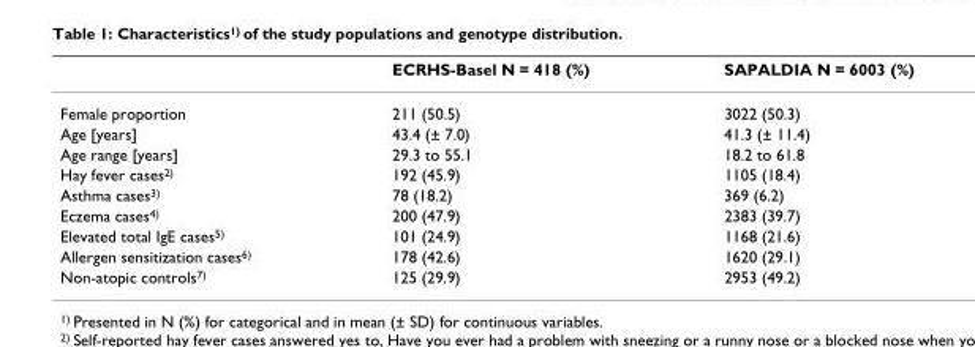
<table><thead><tr><td></td><td>ECRHS-Basel N = 418 (%)</td><td>SAPALDIA N = 6003 (%)</td></tr></thead><tbody><tr><td>Female proportion</td><td>211 (50.5)</td><td>3022 (50.3)</td></tr><tr><td>Age [years]</td><td>43.4 (± 7.0)</td><td>41.3 (± 11.4)</td></tr><tr><td>Age range [years]</td><td>29.3 to 55.1</td><td>18.2 to 61.8</td></tr><tr><td>Hay fever cases<sup>2)</sup></td><td>192 (45.9)</td><td>1105 (18.4)</td></tr><tr><td>Asthma cases<sup>3)</sup></td><td>78 (18.2)</td><td>369 (6.2)</td></tr><tr><td>Eczema cases<sup>4)</sup></td><td>200 (47.9)</td><td>2383 (39.7)</td></tr><tr><td>Elevated total IgE cases<sup>5)</sup></td><td>101 (24.9)</td><td>1168 (21.6)</td></tr><tr><td>Allergen sensitization cases<sup>6)</sup></td><td>178 (42.6)</td><td>1620 (29.1)</td></tr><tr><td>Non-atopic controls<sup>7)</sup></td><td>125 (29.9)</td><td>2953 (49.2)</td></tr></tbody></table>